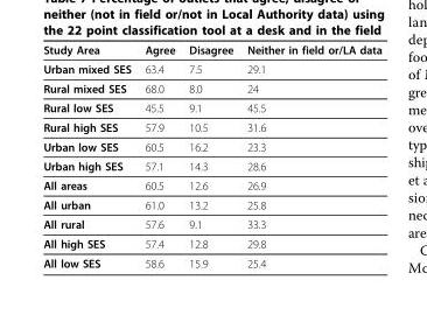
<table><thead><tr><td>Study Area</td><td>Agree</td><td>Disagree</td><td>Neither in field or/LA data</td></tr></thead><tbody><tr><td>Urban mixed SES</td><td>63.4</td><td>7.5</td><td>29.1</td></tr><tr><td>Rural mixed SES</td><td>68.0</td><td>8.0</td><td>24</td></tr><tr><td>Rural low SES</td><td>45.5</td><td>9.1</td><td>45.5</td></tr><tr><td>Rural high SES</td><td>57.9</td><td>10.5</td><td>31.6</td></tr><tr><td>Urban low SES</td><td>60.5</td><td>16.2</td><td>23.3</td></tr><tr><td>Urban high SES</td><td>57.1</td><td>14.3</td><td>28.6</td></tr><tr><td>All areas</td><td>60.5</td><td>12.6</td><td>26.9</td></tr><tr><td>All urban</td><td>61.0</td><td>13.2</td><td>25.8</td></tr><tr><td>All rural</td><td>57.6</td><td>9.1</td><td>33.3</td></tr><tr><td>All high SES</td><td>57.4</td><td>12.8</td><td>29.8</td></tr><tr><td>All low SES</td><td>58.6</td><td>15.9</td><td>25.4</td></tr></tbody></table>